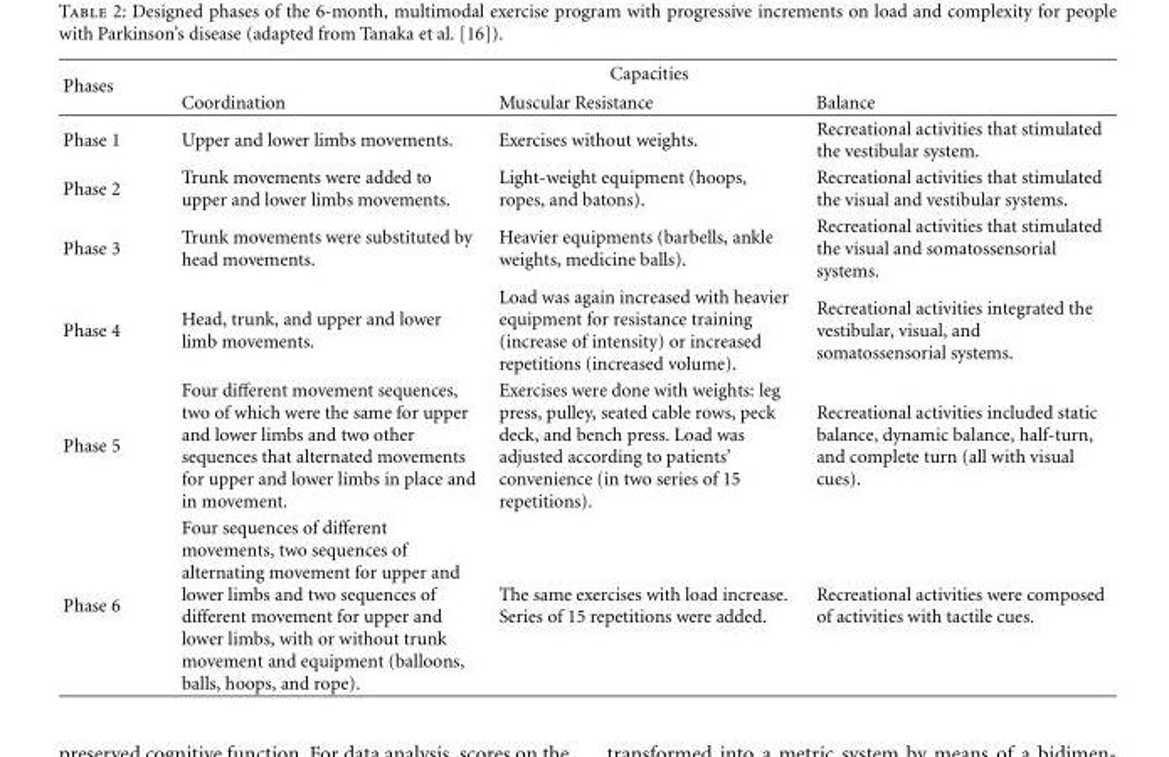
<table><thead><tr><td rowspan="2">Phases</td><td colspan="3">Capacities</td></tr><tr><td>Coordination</td><td>Muscular Resistance</td><td>Balance</td></tr></thead><tbody><tr><td>Phase 1</td><td>Upper and lower limbs movements.</td><td>Exercises without weights.</td><td>Recreational activities that stimulated the vestibular system.</td></tr><tr><td>Phase 2</td><td>Trunk movements were added to upper and lower limbs movements.</td><td>Light-weight equipment (hoops, ropes, and batons).</td><td>Recreational activities that stimulated the visual and vestibular systems.</td></tr><tr><td>Phase 3</td><td>Trunk movements were substituted by head movements.</td><td>Heavier equipments (barbells, ankle weights, medicine balls).</td><td>Recreational activities that stimulated the visual and somatossensorial systems.</td></tr><tr><td>Phase 4</td><td>Head, trunk, and upper and lower limb movements.</td><td>Load was again increased with heavier equipment for resistance training (increase of intensity) or increased repetitions (increased volume).</td><td>Recreational activities integrated the vestibular, visual, and somatossensorial systems.</td></tr><tr><td>Phase 5</td><td>Four different movement sequences, two of which were the same for upper and lower limbs and two other sequences that alternated movements for upper and lower limbs in place and in movement.</td><td>Exercises were done with weights: leg press, pulley, seated cable rows, peck deck, and bench press. Load was adjusted according to patients’ convenience (in two series of 15 repetitions).</td><td>Recreational activities included static balance, dynamic balance, half-turn, and complete turn (all with visual cues).</td></tr><tr><td>Phase 6</td><td>Four sequences of different movements, two sequences of alternating movement for upper and lower limbs and two sequences of different movement for upper and lower limbs, with or without trunk movement and equipment (balloons, balls, hoops, and rope).</td><td>The same exercises with load increase. Series of 15 repetitions were added.</td><td>Recreational activities were composed of activities with tactile cues.</td></tr></tbody></table>